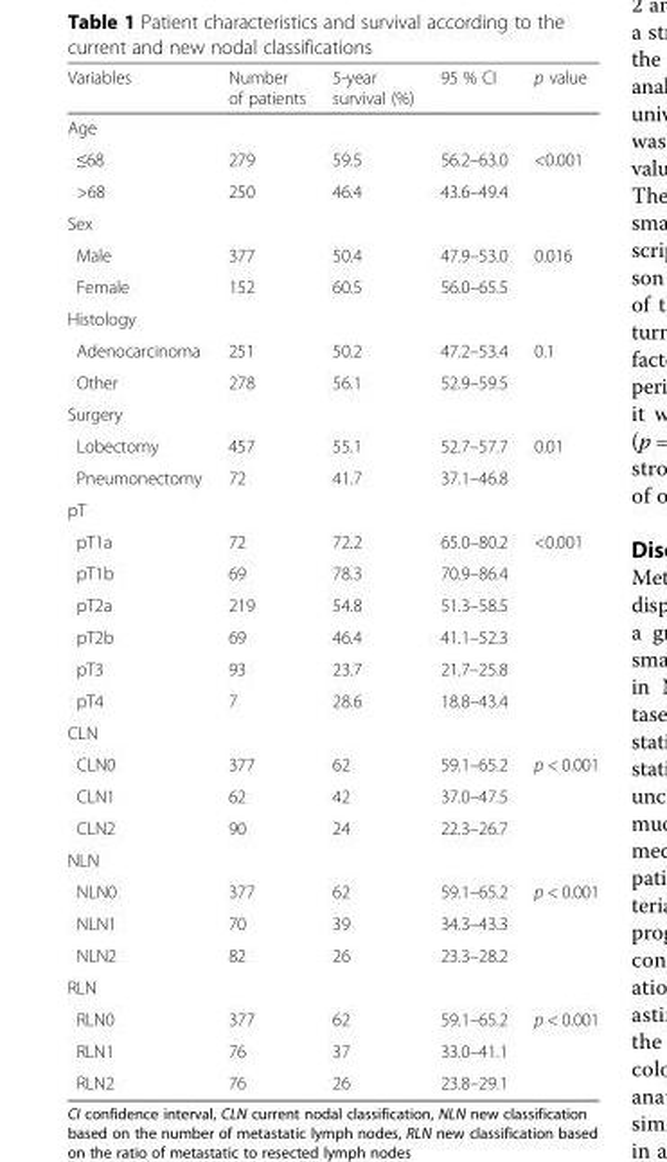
<table><thead><tr><td>Variables</td><td>Number of patients</td><td>5-year survival (%)</td><td>95 % CI</td><td>p value</td></tr></thead><tbody><tr><td colspan="5">Age</td></tr><tr><td>≤68</td><td>279</td><td>59.5</td><td>56.2–63.0</td><td>&lt;0.001</td></tr><tr><td>&gt;68</td><td>250</td><td>46.4</td><td>43.6–49.4</td><td></td></tr><tr><td colspan="5">Sex</td></tr><tr><td>Male</td><td>377</td><td>50.4</td><td>47.9–53.0</td><td>0.016</td></tr><tr><td>Female</td><td>152</td><td>60.5</td><td>56.0–65.5</td><td></td></tr><tr><td colspan="5">Histology</td></tr><tr><td>Adenocarcinoma</td><td>251</td><td>50.2</td><td>47.2–53.4</td><td>0.1</td></tr><tr><td>Other</td><td>278</td><td>56.1</td><td>52.9–59.5</td><td></td></tr><tr><td colspan="5">Surgery</td></tr><tr><td>Lobectomy</td><td>457</td><td>55.1</td><td>52.7–57.7</td><td>0.01</td></tr><tr><td>Pneumonectomy</td><td>72</td><td>41.7</td><td>37.1–46.8</td><td></td></tr><tr><td colspan="5">pT</td></tr><tr><td>pT1a</td><td>72</td><td>72.2</td><td>65.0–80.2</td><td>&lt;0.001</td></tr><tr><td>pT1b</td><td>69</td><td>78.3</td><td>70.9–86.4</td><td></td></tr><tr><td>pT2a</td><td>219</td><td>54.8</td><td>51.3–58.5</td><td></td></tr><tr><td>pT2b</td><td>69</td><td>46.4</td><td>41.1–52.3</td><td></td></tr><tr><td>pT3</td><td>93</td><td>23.7</td><td>21.7–25.8</td><td></td></tr><tr><td>pT4</td><td>7</td><td>28.6</td><td>18.8–43.4</td><td></td></tr><tr><td colspan="5">CLN</td></tr><tr><td>CLN0</td><td>377</td><td>62</td><td>59.1–65.2</td><td>p &lt; 0.001</td></tr><tr><td>CLN1</td><td>62</td><td>42</td><td>37.0–47.5</td><td></td></tr><tr><td>CLN2</td><td>90</td><td>24</td><td>22.3–26.7</td><td></td></tr><tr><td colspan="5">NLN</td></tr><tr><td>NLN0</td><td>377</td><td>62</td><td>59.1–65.2</td><td>p &lt; 0.001</td></tr><tr><td>NLN1</td><td>70</td><td>39</td><td>34.3–43.3</td><td></td></tr><tr><td>NLN2</td><td>82</td><td>26</td><td>23.3–28.2</td><td></td></tr><tr><td colspan="5">RLN</td></tr><tr><td>RLN0</td><td>377</td><td>62</td><td>59.1–65.2</td><td>p &lt; 0.001</td></tr><tr><td>RLN1</td><td>76</td><td>37</td><td>33.0–41.1</td><td></td></tr><tr><td>RLN2</td><td>76</td><td>26</td><td>23.8–29.1</td><td></td></tr></tbody></table>